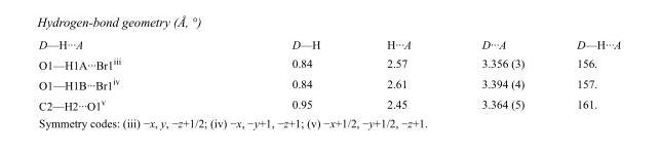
<table><tbody><tr><td>D—H···A</td><td>D—H</td><td>H···A</td><td>D···A</td><td>D—H···A</td></tr><tr><td>O1—H1A···Br1<sup>iii</sup></td><td>0.84</td><td>2.57</td><td>3.356 (3)</td><td>156.</td></tr><tr><td>O1—H1B···Br1<sup>iv</sup></td><td>0.84</td><td>2.61</td><td>3.394 (4)</td><td>157.</td></tr><tr><td>C2—H2···O1<sup>v</sup></td><td>0.95</td><td>2.45</td><td>3.364 (5)</td><td>161.</td></tr></tbody></table>